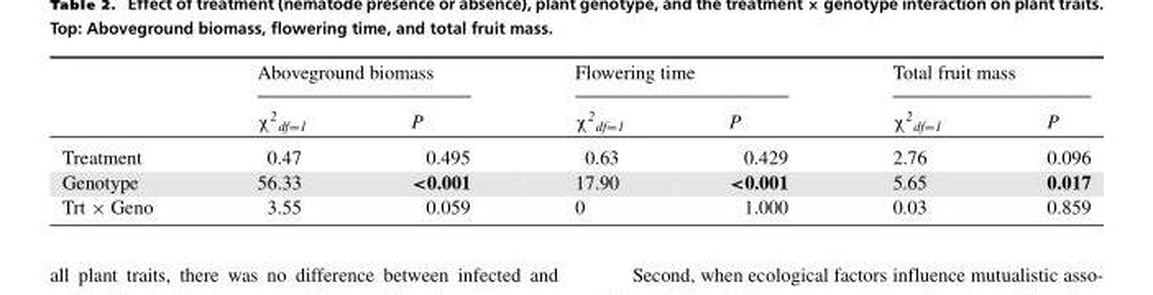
<table><thead><tr><td rowspan="2"></td><td colspan="2">Aboveground biomass</td><td colspan="2">Flowering time</td><td colspan="2">Total fruit mass</td></tr><tr><td>χ<sup>2</sup><sub>df=1</sub></td><td>P</td><td>χ<sup>2</sup><sub>df=1</sub></td><td>P</td><td>χ<sup>2</sup><sub>df=1</sub></td><td>P</td></tr></thead><tbody><tr><td>Treatment</td><td>0.47</td><td>0.495</td><td>0.63</td><td>0.429</td><td>2.76</td><td>0.096</td></tr><tr><td>Genotype</td><td>56.33</td><td>&lt;0.001</td><td>17.90</td><td>&lt;0.001</td><td>5.65</td><td>0.017</td></tr><tr><td>Trt × Geno</td><td>3.55</td><td>0.059</td><td>0</td><td>1.000</td><td>0.03</td><td>0.859</td></tr></tbody></table>